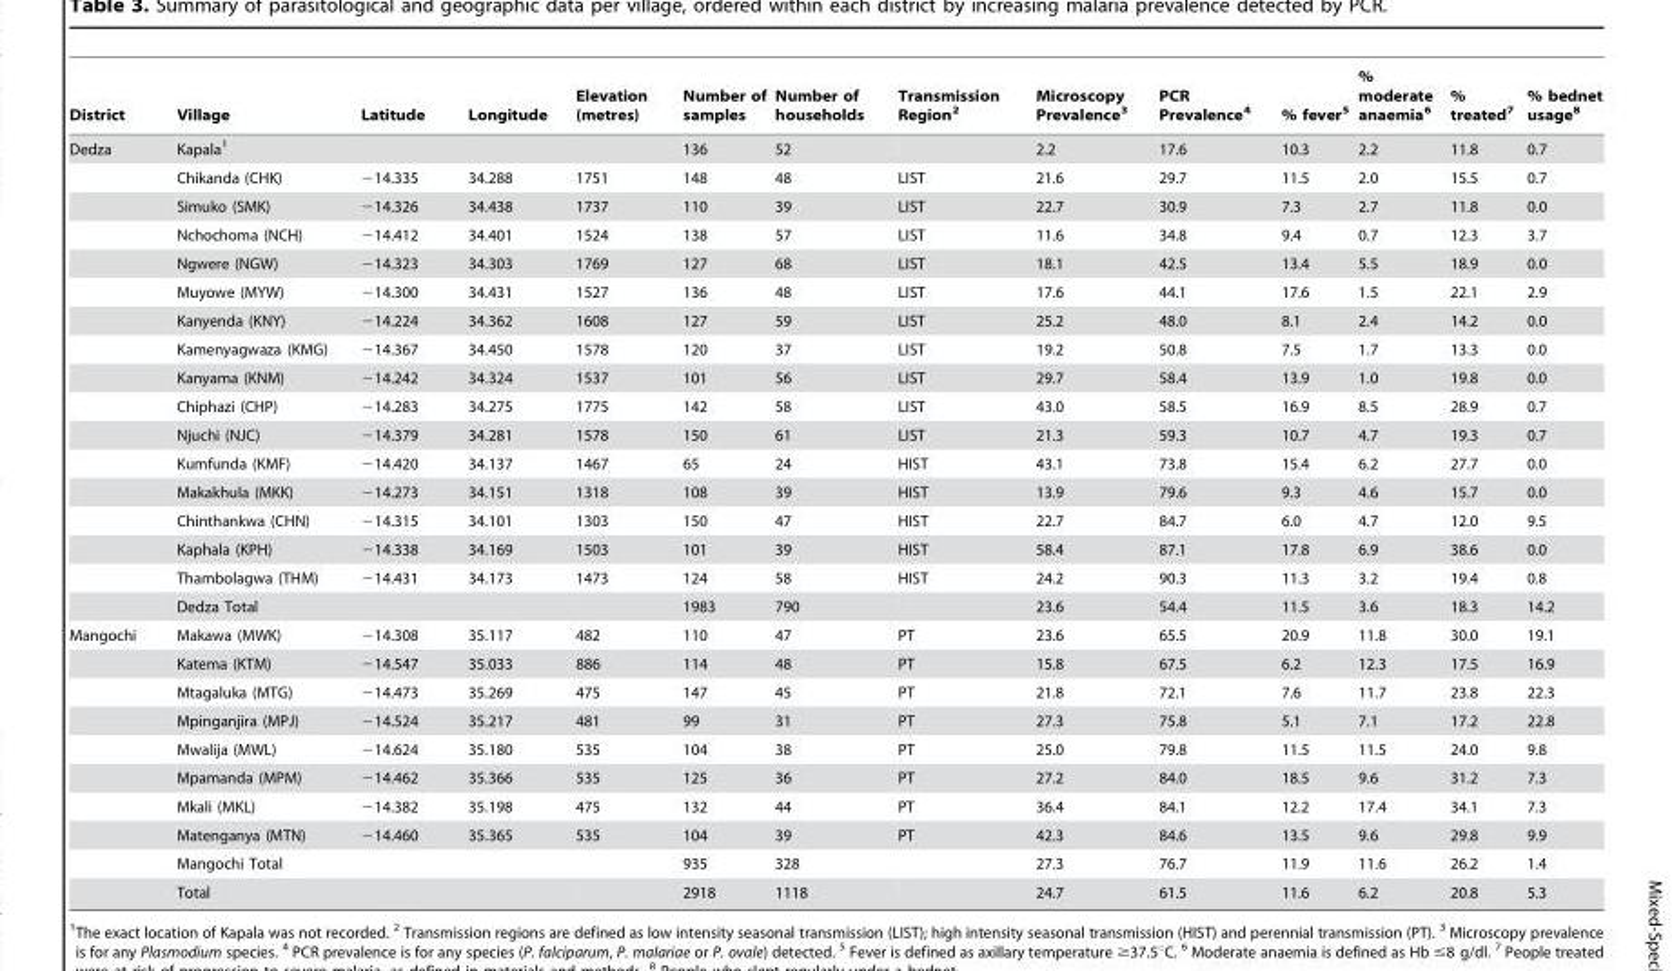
<table><thead><tr><td>District</td><td>Village</td><td>Latitude</td><td>Longitude</td><td>Elevation (metres)</td><td>Number of samples</td><td>Number of households</td><td>Transmission Region<sup>2</sup></td><td>Microscopy Prevalence<sup>3</sup></td><td>PCR Prevalence<sup>4</sup></td><td>% fever<sup>5</sup></td><td>% moderate anaemia<sup>6</sup></td><td>% treated<sup>7</sup></td><td>% bednet usage<sup>8</sup></td></tr></thead><tbody><tr><td rowspan="17">Dedza</td><td>Kapala<sup>1</sup></td><td></td><td></td><td></td><td>136</td><td>52</td><td></td><td>2.2</td><td>17.6</td><td>10.3</td><td>2.2</td><td>11.8</td><td>0.7</td></tr><tr><td>Chikanda (CHK)</td><td>−14.335</td><td>34.288</td><td>1751</td><td>148</td><td>48</td><td>LIST</td><td>21.6</td><td>29.7</td><td>11.5</td><td>2.0</td><td>15.5</td><td>0.7</td></tr><tr><td>Simuko (SMK)</td><td>−14.326</td><td>34.438</td><td>1737</td><td>110</td><td>39</td><td>LIST</td><td>22.7</td><td>30.9</td><td>7.3</td><td>2.7</td><td>11.8</td><td>0.0</td></tr><tr><td>Nchochoma (NCH)</td><td>−14.412</td><td>34.401</td><td>1524</td><td>138</td><td>57</td><td>LIST</td><td>11.6</td><td>34.8</td><td>9.4</td><td>0.7</td><td>12.3</td><td>3.7</td></tr><tr><td>Ngwere (NGW)</td><td>−14.323</td><td>34.303</td><td>1769</td><td>127</td><td>68</td><td>LIST</td><td>18.1</td><td>42.5</td><td>13.4</td><td>5.5</td><td>18.9</td><td>0.0</td></tr><tr><td>Muyowe (MYW)</td><td>−14.300</td><td>34.431</td><td>1527</td><td>136</td><td>48</td><td>LIST</td><td>17.6</td><td>44.1</td><td>17.6</td><td>1.5</td><td>22.1</td><td>2.9</td></tr><tr><td>Kanyenda (KNY)</td><td>−14.224</td><td>34.362</td><td>1608</td><td>127</td><td>59</td><td>LIST</td><td>25.2</td><td>48.0</td><td>8.1</td><td>2.4</td><td>14.2</td><td>0.0</td></tr><tr><td>Kamenyagwaza (KMG)</td><td>−14.367</td><td>34.450</td><td>1578</td><td>120</td><td>37</td><td>LIST</td><td>19.2</td><td>50.8</td><td>7.5</td><td>1.7</td><td>13.3</td><td>0.0</td></tr><tr><td>Kanyama (KNM)</td><td>−14.242</td><td>34.324</td><td>1537</td><td>101</td><td>56</td><td>LIST</td><td>29.7</td><td>58.4</td><td>13.9</td><td>1.0</td><td>19.8</td><td>0.0</td></tr><tr><td>Chiphazi (CHP)</td><td>−14.283</td><td>34.275</td><td>1775</td><td>142</td><td>58</td><td>LIST</td><td>43.0</td><td>58.5</td><td>16.9</td><td>8.5</td><td>28.9</td><td>0.7</td></tr><tr><td>Njuchi (NJC)</td><td>−14.379</td><td>34.281</td><td>1578</td><td>150</td><td>61</td><td>LIST</td><td>21.3</td><td>59.3</td><td>10.7</td><td>4.7</td><td>19.3</td><td>0.7</td></tr><tr><td>Kumfunda (KMF)</td><td>−14.420</td><td>34.137</td><td>1467</td><td>65</td><td>24</td><td>HIST</td><td>43.1</td><td>73.8</td><td>15.4</td><td>6.2</td><td>27.7</td><td>0.0</td></tr><tr><td>Makakhula (MKK)</td><td>−14.273</td><td>34.151</td><td>1318</td><td>108</td><td>39</td><td>HIST</td><td>13.9</td><td>79.6</td><td>9.3</td><td>4.6</td><td>15.7</td><td>0.0</td></tr><tr><td>Chinthankwa (CHN)</td><td>−14.315</td><td>34.101</td><td>1303</td><td>150</td><td>47</td><td>HIST</td><td>22.7</td><td>84.7</td><td>6.0</td><td>4.7</td><td>12.0</td><td>9.5</td></tr><tr><td>Kaphala (KPH)</td><td>−14.338</td><td>34.169</td><td>1503</td><td>101</td><td>39</td><td>HIST</td><td>58.4</td><td>87.1</td><td>17.8</td><td>6.9</td><td>38.6</td><td>0.0</td></tr><tr><td>Thambolagwa (THM)</td><td>−14.431</td><td>34.173</td><td>1473</td><td>124</td><td>58</td><td>HIST</td><td>24.2</td><td>90.3</td><td>11.3</td><td>3.2</td><td>19.4</td><td>0.8</td></tr><tr><td>Dedza Total</td><td></td><td></td><td></td><td>1983</td><td>790</td><td></td><td>23.6</td><td>54.4</td><td>11.5</td><td>3.6</td><td>18.3</td><td>14.2</td></tr><tr><td rowspan="10">Mangochi</td><td>Makawa (MWK)</td><td>−14.308</td><td>35.117</td><td>482</td><td>110</td><td>47</td><td>PT</td><td>23.6</td><td>65.5</td><td>20.9</td><td>11.8</td><td>30.0</td><td>19.1</td></tr><tr><td>Katema (KTM)</td><td>−14.547</td><td>35.033</td><td>886</td><td>114</td><td>48</td><td>PT</td><td>15.8</td><td>67.5</td><td>6.2</td><td>12.3</td><td>17.5</td><td>16.9</td></tr><tr><td>Mtagaluka (MTG)</td><td>−14.473</td><td>35.269</td><td>475</td><td>147</td><td>45</td><td>PT</td><td>21.8</td><td>72.1</td><td>7.6</td><td>11.7</td><td>23.8</td><td>22.3</td></tr><tr><td>Mpinganjira (MPJ)</td><td>−14.524</td><td>35.217</td><td>481</td><td>99</td><td>31</td><td>PT</td><td>27.3</td><td>75.8</td><td>5.1</td><td>7.1</td><td>17.2</td><td>22.8</td></tr><tr><td>Mwalija (MWL)</td><td>−14.624</td><td>35.180</td><td>535</td><td>104</td><td>38</td><td>PT</td><td>25.0</td><td>79.8</td><td>11.5</td><td>11.5</td><td>24.0</td><td>9.8</td></tr><tr><td>Mpamanda (MPM)</td><td>−14.462</td><td>35.366</td><td>535</td><td>125</td><td>36</td><td>PT</td><td>27.2</td><td>84.0</td><td>18.5</td><td>9.6</td><td>31.2</td><td>7.3</td></tr><tr><td>Mkali (MKL)</td><td>−14.382</td><td>35.198</td><td>475</td><td>132</td><td>44</td><td>PT</td><td>36.4</td><td>84.1</td><td>12.2</td><td>17.4</td><td>34.1</td><td>7.3</td></tr><tr><td>Matenganya (MTN)</td><td>−14.460</td><td>35.365</td><td>535</td><td>104</td><td>39</td><td>PT</td><td>42.3</td><td>84.6</td><td>13.5</td><td>9.6</td><td>29.8</td><td>9.9</td></tr><tr><td>Mangochi Total</td><td></td><td></td><td></td><td>935</td><td>328</td><td></td><td>27.3</td><td>76.7</td><td>11.9</td><td>11.6</td><td>26.2</td><td>1.4</td></tr><tr><td>Total</td><td></td><td></td><td></td><td>2918</td><td>1118</td><td></td><td>24.7</td><td>61.5</td><td>11.6</td><td>6.2</td><td>20.8</td><td>5.3</td></tr></tbody></table>